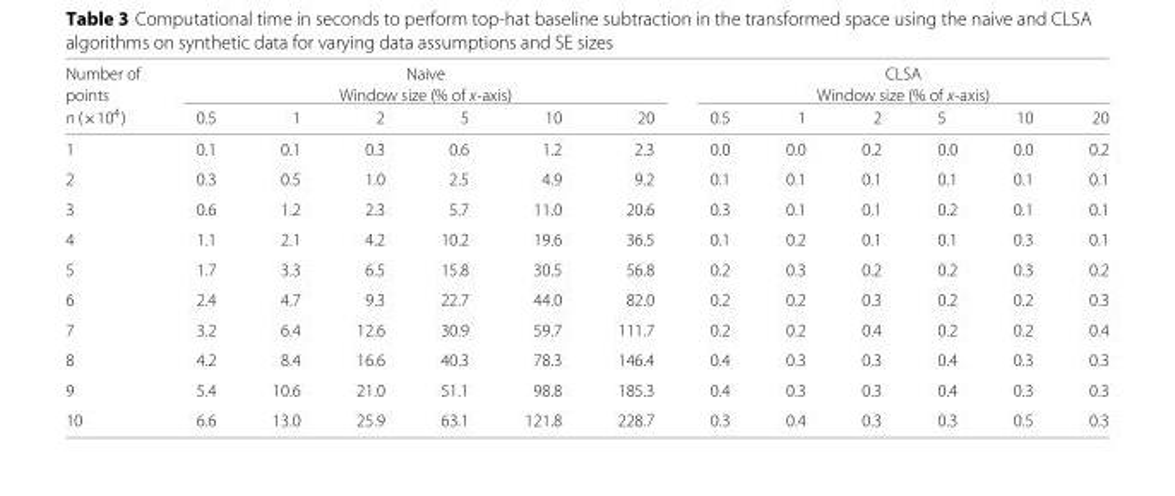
<table><thead><tr><td rowspan="3">Number of points n (×10<sup>4</sup>)</td><td rowspan="2" colspan="4">Naive Window size (% of x-axis)</td><td rowspan="3">10</td><td rowspan="3">20</td><td rowspan="2" colspan="4">CLSA Window size (% of x-axis)</td><td rowspan="3">10</td><td rowspan="3">20</td></tr><tr></tr><tr><td>0.5</td><td>1</td><td>2</td><td>5</td><td>0.5</td><td>1</td><td>2</td><td>5</td></tr></thead><tbody><tr><td>1</td><td>0.1</td><td>0.1</td><td>0.3</td><td>0.6</td><td>1.2</td><td>2.3</td><td>0.0</td><td>0.0</td><td>0.2</td><td>0.0</td><td>0.0</td><td>0.2</td></tr><tr><td>2</td><td>0.3</td><td>0.5</td><td>1.0</td><td>2.5</td><td>4.9</td><td>9.2</td><td>0.1</td><td>0.1</td><td>0.1</td><td>0.1</td><td>0.1</td><td>0.1</td></tr><tr><td>3</td><td>0.6</td><td>1.2</td><td>2.3</td><td>5.7</td><td>11.0</td><td>20.6</td><td>0.3</td><td>0.1</td><td>0.1</td><td>0.2</td><td>0.1</td><td>0.1</td></tr><tr><td>4</td><td>1.1</td><td>2.1</td><td>4.2</td><td>10.2</td><td>19.6</td><td>36.5</td><td>0.1</td><td>0.2</td><td>0.1</td><td>0.1</td><td>0.3</td><td>0.1</td></tr><tr><td>5</td><td>1.7</td><td>3.3</td><td>6.5</td><td>15.8</td><td>30.5</td><td>56.8</td><td>0.2</td><td>0.3</td><td>0.2</td><td>0.2</td><td>0.3</td><td>0.2</td></tr><tr><td>6</td><td>2.4</td><td>4.7</td><td>9.3</td><td>22.7</td><td>44.0</td><td>82.0</td><td>0.2</td><td>0.2</td><td>0.3</td><td>0.2</td><td>0.2</td><td>0.3</td></tr><tr><td>7</td><td>3.2</td><td>6.4</td><td>12.6</td><td>30.9</td><td>59.7</td><td>111.7</td><td>0.2</td><td>0.2</td><td>0.4</td><td>0.2</td><td>0.2</td><td>0.4</td></tr><tr><td>8</td><td>4.2</td><td>8.4</td><td>16.6</td><td>40.3</td><td>78.3</td><td>146.4</td><td>0.4</td><td>0.3</td><td>0.3</td><td>0.4</td><td>0.3</td><td>0.3</td></tr><tr><td>9</td><td>5.4</td><td>10.6</td><td>21.0</td><td>51.1</td><td>98.8</td><td>185.3</td><td>0.4</td><td>0.3</td><td>0.3</td><td>0.4</td><td>0.3</td><td>0.3</td></tr><tr><td>10</td><td>6.6</td><td>13.0</td><td>25.9</td><td>63.1</td><td>121.8</td><td>228.7</td><td>0.3</td><td>0.4</td><td>0.3</td><td>0.3</td><td>0.5</td><td>0.3</td></tr></tbody></table>